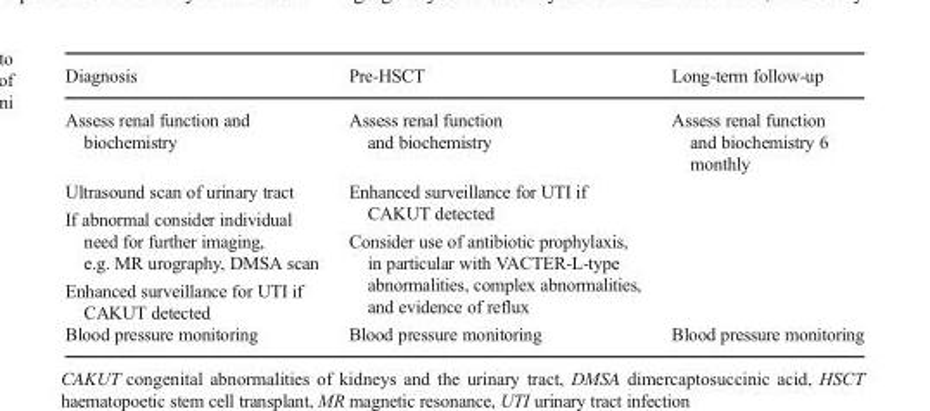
<table><thead><tr><td>Diagnosis</td><td>Pre-HSCT</td><td>Long-term follow-up</td></tr></thead><tbody><tr><td>Assess renal function and biochemistry</td><td>Assess renal function and biochemistry</td><td>Assess renal function and biochemistry 6 monthly</td></tr><tr><td>Ultrasound scan of urinary tract If abnormal consider individual need for further imaging, e.g. MR urography, DMSA scan Enhanced surveillance for UTI if CAKUT detected</td><td>Enhanced surveillance for UTI if CAKUT detected Consider use of antibiotic prophylaxis, in particular with VACTER-L-type abnormalities, complex abnormalities, and evidence of reflux</td><td></td></tr><tr><td>Blood pressure monitoring</td><td>Blood pressure monitoring</td><td>Blood pressure monitoring</td></tr></tbody></table>